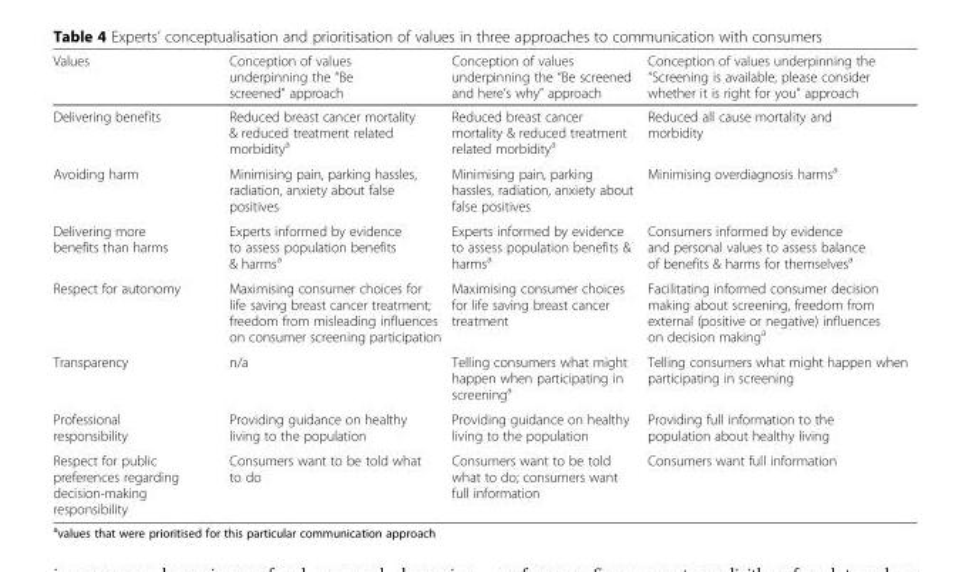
<table><thead><tr><td>Values</td><td>Conception of values underpinning the “Be screened” approach</td><td>Conception of values underpinning the “Be screened and here’s why” approach</td><td>Conception of values underpinning the “Screening is available, please consider whether it is right for you” approach</td></tr></thead><tbody><tr><td>Delivering benefits</td><td>Reduced breast cancer mortality &amp; reduced treatment related morbidity<sup>a</sup></td><td>Reduced breast cancer mortality &amp; reduced treatment related morbidity<sup>a</sup></td><td>Reduced all cause mortality and morbidity</td></tr><tr><td>Avoiding harm</td><td>Minimising pain, parking hassles, radiation, anxiety about false positives</td><td>Minimising pain, parking hassles, radiation, anxiety about false positives</td><td>Minimising overdiagnosis harms<sup>a</sup></td></tr><tr><td>Delivering more benefits than harms</td><td>Experts informed by evidence to assess population benefits &amp; harms<sup>a</sup></td><td>Experts informed by evidence to assess population benefits &amp; harms<sup>a</sup></td><td>Consumers informed by evidence and personal values to assess balance of benefits &amp; harms for themselves<sup>a</sup></td></tr><tr><td>Respect for autonomy</td><td>Maximising consumer choices for life saving breast cancer treatment; freedom from misleading influences on consumer screening participation</td><td>Maximising consumer choices for life saving breast cancer treatment</td><td>Facilitating informed consumer decision making about screening, freedom from external (positive or negative) influences on decision making<sup>a</sup></td></tr><tr><td>Transparency</td><td>n/a</td><td>Telling consumers what might happen when participating in screening<sup>a</sup></td><td>Telling consumers what might happen when participating in screening</td></tr><tr><td>Professional responsibility</td><td>Providing guidance on healthy living to the population</td><td>Providing guidance on healthy living to the population</td><td>Providing full information to the population about healthy living</td></tr><tr><td>Respect for public preferences regarding decision-making responsibility</td><td>Consumers want to be told what to do</td><td>Consumers want to be told what to do; consumers want full information</td><td>Consumers want full information</td></tr></tbody></table>